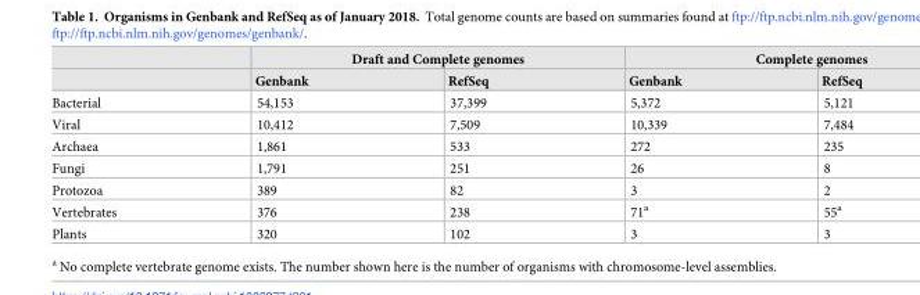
<table><thead><tr><td rowspan="2"></td><td colspan="2">Draft and Complete genomes</td><td colspan="2">Complete genomes</td></tr><tr><td>Genbank</td><td>RefSeq</td><td>Genbank</td><td>RefSeq</td></tr></thead><tbody><tr><td>Bacterial</td><td>54,153</td><td>37,399</td><td>5,372</td><td>5,121</td></tr><tr><td>Viral</td><td>10,412</td><td>7,509</td><td>10,339</td><td>7,484</td></tr><tr><td>Archaea</td><td>1,861</td><td>533</td><td>272</td><td>235</td></tr><tr><td>Fungi</td><td>1,791</td><td>251</td><td>26</td><td>8</td></tr><tr><td>Protozoa</td><td>389</td><td>82</td><td>3</td><td>2</td></tr><tr><td>Vertebrates</td><td>376</td><td>238</td><td>71<sup>a</sup></td><td>55<sup>a</sup></td></tr><tr><td>Plants</td><td>320</td><td>102</td><td>3</td><td>3</td></tr></tbody></table>